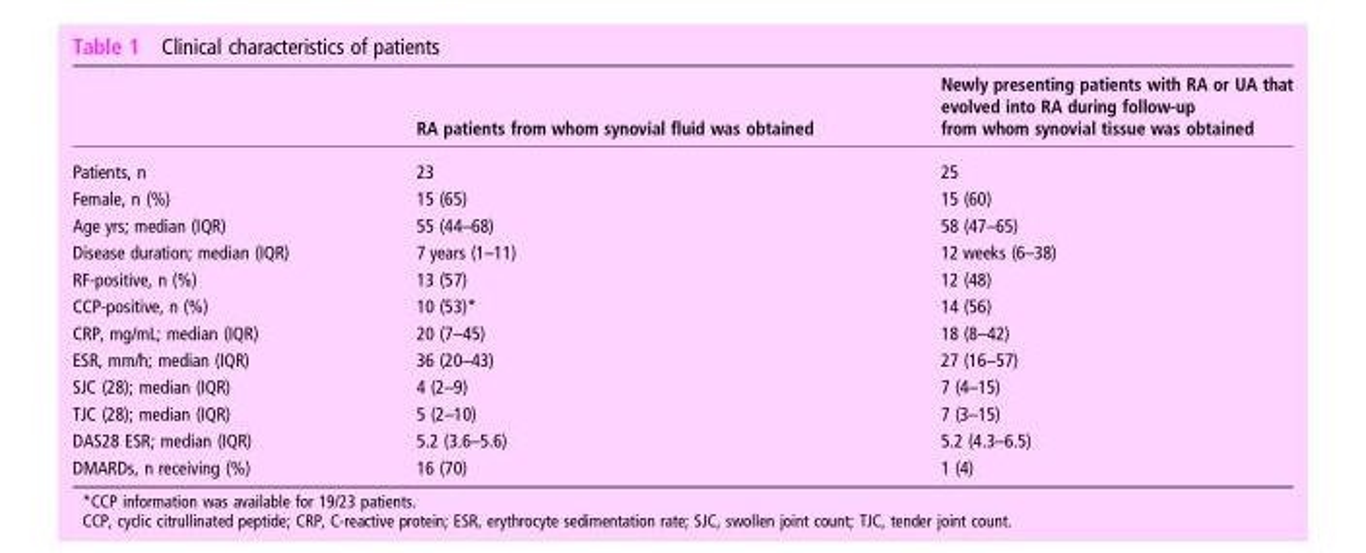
<table><thead><tr><td></td><td>RA patients from whom synovial fluid was obtained</td><td>Newly presenting patients with RA or UA that evolved into RA during follow-up from whom synovial tissue was obtained</td></tr></thead><tbody><tr><td>Patients, n</td><td>23</td><td>25</td></tr><tr><td>Female, n (%)</td><td>15 (65)</td><td>15 (60)</td></tr><tr><td>Age yrs; median (IQR)</td><td>55 (44–68)</td><td>58 (47–65)</td></tr><tr><td>Disease duration; median (IQR)</td><td>7 years (1–11)</td><td>12 weeks (6–38)</td></tr><tr><td>RF-positive, n (%)</td><td>13 (57)</td><td>12 (48)</td></tr><tr><td>CCP-positive, n (%)</td><td>10 (53)*</td><td>14 (56)</td></tr><tr><td>CRP, mg/mL; median (IQR)</td><td>20 (7–45)</td><td>18 (8–42)</td></tr><tr><td>ESR, mm/h; median (IQR)</td><td>36 (20–43)</td><td>27 (16–57)</td></tr><tr><td>SJC (28); median (IQR)</td><td>4 (2–9)</td><td>7 (4–15)</td></tr><tr><td>TJC (28); median (IQR)</td><td>5 (2–10)</td><td>7 (3–15)</td></tr><tr><td>DAS28 ESR; median (IQR)</td><td>5.2 (3.6–5.6)</td><td>5.2 (4.3–6.5)</td></tr><tr><td>DMARDs, n receiving (%)</td><td>16 (70)</td><td>1 (4)</td></tr></tbody></table>